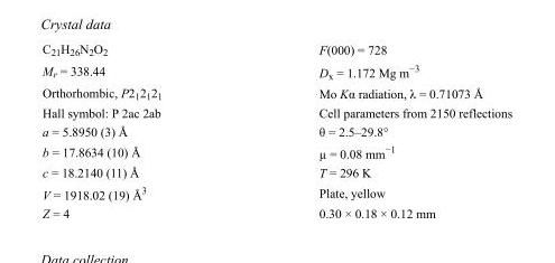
<table><tbody><tr><td>C<sub>21</sub>H<sub>26</sub>N<sub>2</sub>O<sub>2</sub></td><td>F(000) = 728</td></tr><tr><td>M<sub>r</sub> = 338.44</td><td>D<sub>x</sub> = 1.172 Mg m<sup>−3</sup></td></tr><tr><td>Orthorhombic, P2<sub>1</sub>2<sub>1</sub>2<sub>1</sub></td><td>Mo Kα radiation, λ = 0.71073 Å</td></tr><tr><td>Hall symbol: P 2ac 2ab</td><td>Cell parameters from 2150 reflections</td></tr><tr><td>a = 5.8950 (3) Å</td><td>θ = 2.5–29.8°</td></tr><tr><td>b = 17.8634 (10) Å</td><td>µ = 0.08 mm<sup>−1</sup></td></tr><tr><td>c = 18.2140 (11) Å</td><td>T = 296 K</td></tr><tr><td>V = 1918.02 (19) Å<sup>3</sup></td><td>Plate, yellow</td></tr><tr><td>Z = 4</td><td>0.30 × 0.18 × 0.12 mm</td></tr></tbody></table>